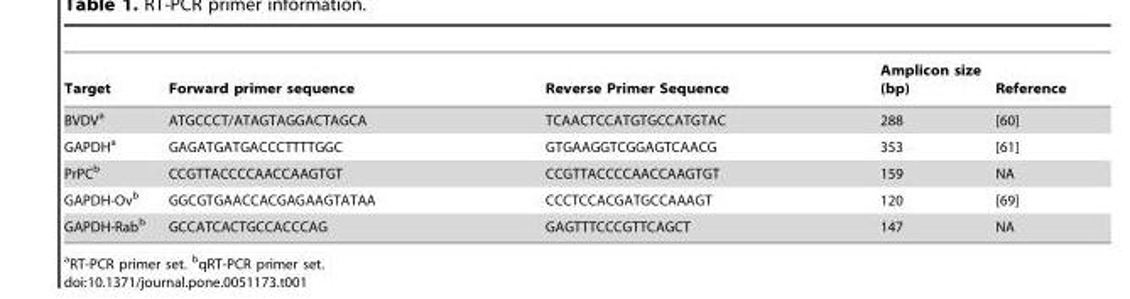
<table><thead><tr><td>Target</td><td>Forward primer sequence</td><td>Reverse Primer Sequence</td><td>Amplicon size (bp)</td><td>Reference</td></tr></thead><tbody><tr><td>BVDV<sup>a</sup></td><td>ATGCCCT/ATAGTAGGACTAGCA</td><td>TCAACTCCATGTGCCATGTAC</td><td>288</td><td>[60]</td></tr><tr><td>GAPDH<sup>a</sup></td><td>GAGATGATGACCCTTTTGGC</td><td>GTGAAGGTCGGAGTCAACG</td><td>353</td><td>[61]</td></tr><tr><td>PrPC<sup>b</sup></td><td>CCGTTACCCCAACCAAGTGT</td><td>CCGTTACCCCAACCAAGTGT</td><td>159</td><td>NA</td></tr><tr><td>GAPDH-Ov<sup>b</sup></td><td>GGCGTGAACCACGAGAAGTATAA</td><td>CCCTCCACGATGCCAAAGT</td><td>120</td><td>[69]</td></tr><tr><td>GAPDH-Rab<sup>b</sup></td><td>GCCATCACTGCCACCCAG</td><td>GAGTTTCCCGTTCAGCT</td><td>147</td><td>NA</td></tr></tbody></table>